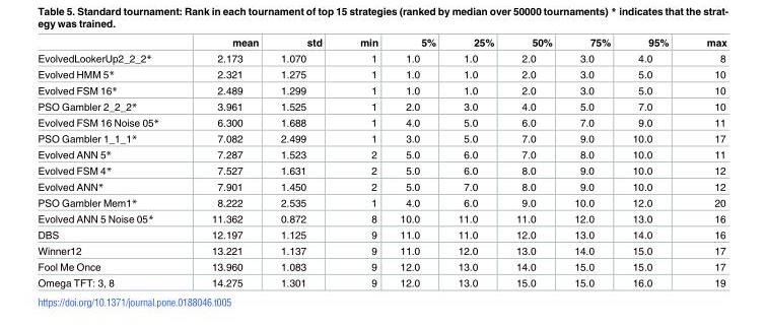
<table><thead><tr><td></td><td>mean</td><td>std</td><td>min</td><td>5%</td><td>25%</td><td>50%</td><td>75%</td><td>95%</td><td>max</td></tr></thead><tbody><tr><td>EvolvedLookerUp2_2_2*</td><td>2.173</td><td>1.070</td><td>1</td><td>1.0</td><td>1.0</td><td>2.0</td><td>3.0</td><td>4.0</td><td>8</td></tr><tr><td>Evolved HMM 5*</td><td>2.321</td><td>1.275</td><td>1</td><td>1.0</td><td>1.0</td><td>2.0</td><td>3.0</td><td>5.0</td><td>10</td></tr><tr><td>Evolved FSM 16*</td><td>2.489</td><td>1.299</td><td>1</td><td>1.0</td><td>1.0</td><td>2.0</td><td>3.0</td><td>5.0</td><td>10</td></tr><tr><td>PSO Gambler 2_2_2*</td><td>3.961</td><td>1.525</td><td>1</td><td>2.0</td><td>3.0</td><td>4.0</td><td>5.0</td><td>7.0</td><td>10</td></tr><tr><td>Evolved FSM 16 Noise 05*</td><td>6.300</td><td>1.688</td><td>1</td><td>4.0</td><td>5.0</td><td>6.0</td><td>7.0</td><td>9.0</td><td>11</td></tr><tr><td>PSO Gambler 1_1_1*</td><td>7.082</td><td>2.499</td><td>1</td><td>3.0</td><td>5.0</td><td>7.0</td><td>9.0</td><td>10.0</td><td>17</td></tr><tr><td>Evolved ANN 5*</td><td>7.287</td><td>1.523</td><td>2</td><td>5.0</td><td>6.0</td><td>7.0</td><td>8.0</td><td>10.0</td><td>11</td></tr><tr><td>Evolved FSM 4*</td><td>7.527</td><td>1.631</td><td>2</td><td>5.0</td><td>6.0</td><td>8.0</td><td>9.0</td><td>10.0</td><td>12</td></tr><tr><td>Evolved ANN*</td><td>7.901</td><td>1.450</td><td>2</td><td>5.0</td><td>7.0</td><td>8.0</td><td>9.0</td><td>10.0</td><td>12</td></tr><tr><td>PSO Gambler Mem1*</td><td>8.222</td><td>2.535</td><td>1</td><td>4.0</td><td>6.0</td><td>9.0</td><td>10.0</td><td>12.0</td><td>20</td></tr><tr><td>Evolved ANN 5 Noise 05*</td><td>11.362</td><td>0.872</td><td>8</td><td>10.0</td><td>11.0</td><td>11.0</td><td>12.0</td><td>13.0</td><td>16</td></tr><tr><td>DBS</td><td>12.197</td><td>1.125</td><td>9</td><td>11.0</td><td>11.0</td><td>12.0</td><td>13.0</td><td>14.0</td><td>16</td></tr><tr><td>Winner12</td><td>13.221</td><td>1.137</td><td>9</td><td>11.0</td><td>12.0</td><td>13.0</td><td>14.0</td><td>15.0</td><td>17</td></tr><tr><td>Fool Me Once</td><td>13.960</td><td>1.083</td><td>9</td><td>12.0</td><td>13.0</td><td>14.0</td><td>15.0</td><td>15.0</td><td>17</td></tr><tr><td>Omega TFT: 3, 8</td><td>14.275</td><td>1.301</td><td>9</td><td>12.0</td><td>13.0</td><td>15.0</td><td>15.0</td><td>16.0</td><td>19</td></tr></tbody></table>